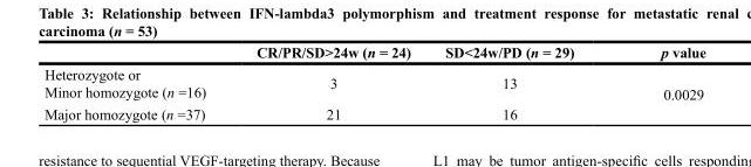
<table><thead><tr><td></td><td>CR/PR/SD&gt;24w (n = 24)</td><td>SD&lt;24w/PD (n = 29)</td><td>p value</td></tr></thead><tbody><tr><td>Heterozygote or Minor homozygote (n =16)</td><td>3</td><td>13</td><td rowspan="2">0.0029</td></tr><tr><td>Major homozygote (n =37)</td><td>21</td><td>16</td></tr></tbody></table>